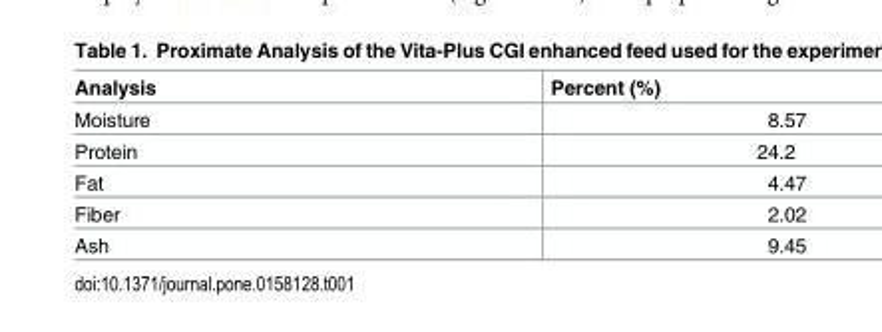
<table><thead><tr><td>Analysis</td><td>Percent (%)</td></tr></thead><tbody><tr><td>Moisture</td><td>8.57</td></tr><tr><td>Protein</td><td>24.2</td></tr><tr><td>Fat</td><td>4.47</td></tr><tr><td>Fiber</td><td>2.02</td></tr><tr><td>Ash</td><td>9.45</td></tr></tbody></table>